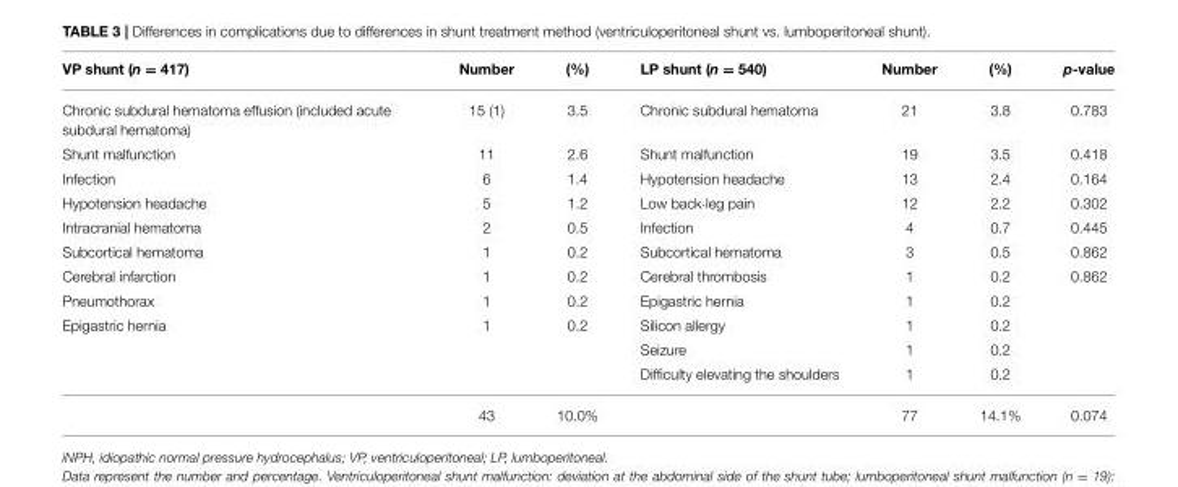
<table><thead><tr><td>VP shunt (n = 417)</td><td>Number</td><td>(%)</td><td>LP shunt (n = 540)</td><td>Number</td><td>(%)</td><td>p-value</td></tr></thead><tbody><tr><td>Chronic subdural hematoma effusion (included acute subdural hematoma)</td><td>15 (1)</td><td>3.5</td><td>Chronic subdural hematoma</td><td>21</td><td>3.8</td><td>0.783</td></tr><tr><td>Shunt malfunction</td><td>11</td><td>2.6</td><td>Shunt malfunction</td><td>19</td><td>3.5</td><td>0.418</td></tr><tr><td>Infection</td><td>6</td><td>1.4</td><td>Hypotension headache</td><td>13</td><td>2.4</td><td>0.164</td></tr><tr><td>Hypotension headache</td><td>5</td><td>1.2</td><td>Low back·leg pain</td><td>12</td><td>2.2</td><td>0.302</td></tr><tr><td>Intracranial hematoma</td><td>2</td><td>0.5</td><td>Infection</td><td>4</td><td>0.7</td><td>0.445</td></tr><tr><td>Subcortical hematoma</td><td>1</td><td>0.2</td><td>Subcortical hematoma</td><td>3</td><td>0.5</td><td>0.862</td></tr><tr><td>Cerebral infarction</td><td>1</td><td>0.2</td><td>Cerebral thrombosis</td><td>1</td><td>0.2</td><td>0.862</td></tr><tr><td>Pneumothorax</td><td>1</td><td>0.2</td><td>Epigastric hernia</td><td>1</td><td>0.2</td><td></td></tr><tr><td rowspan="4">Epigastric hernia</td><td>1</td><td>0.2</td><td>Silicon allergy</td><td>1</td><td>0.2</td><td></td></tr><tr><td></td><td></td><td>Seizure</td><td>1</td><td>0.2</td><td></td></tr><tr><td></td><td></td><td>Difficulty elevating the shoulders</td><td>1</td><td>0.2</td><td></td></tr><tr><td>43</td><td>10.0%</td><td></td><td>77</td><td>14.1%</td><td>0.074</td></tr></tbody></table>